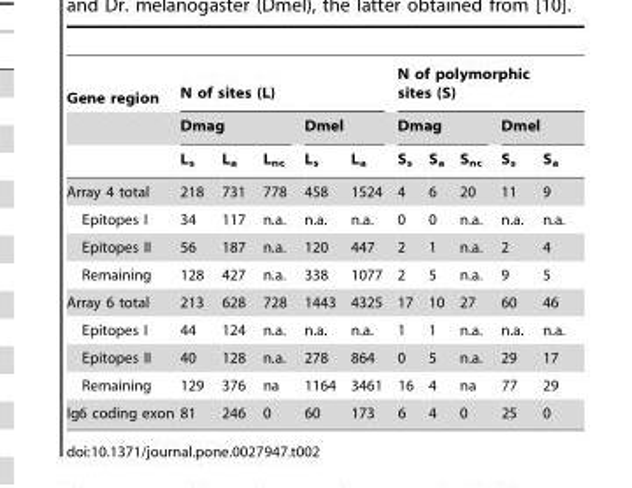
<table><thead><tr><td rowspan="3">Gene region</td><td colspan="5">N of sites (L)</td><td colspan="5">N of polymorphic sites (S)</td></tr><tr><td colspan="3">Dmag</td><td colspan="2">Dmel</td><td colspan="3">Dmag</td><td colspan="2">Dmel</td></tr><tr><td>L<sub>s</sub></td><td>L<sub>a</sub></td><td>L<sub>nc</sub></td><td>L<sub>s</sub></td><td>L<sub>a</sub></td><td>S<sub>s</sub></td><td>S<sub>a</sub></td><td>S<sub>nc</sub></td><td>S<sub>s</sub></td><td>S<sub>a</sub></td></tr></thead><tbody><tr><td>Array 4 total</td><td>218</td><td>731</td><td>778</td><td>458</td><td>1524</td><td>4</td><td>6</td><td>20</td><td>11</td><td>9</td></tr><tr><td>Epitopes I</td><td>34</td><td>117</td><td>n.a.</td><td>n.a.</td><td>n.a.</td><td>0</td><td>0</td><td>n.a.</td><td>n.a.</td><td>n.a.</td></tr><tr><td>Epitopes II</td><td>56</td><td>187</td><td>n.a.</td><td>120</td><td>447</td><td>2</td><td>1</td><td>n.a.</td><td>2</td><td>4</td></tr><tr><td>Remaining</td><td>128</td><td>427</td><td>n.a.</td><td>338</td><td>1077</td><td>2</td><td>5</td><td>n.a.</td><td>9</td><td>5</td></tr><tr><td>Array 6 total</td><td>213</td><td>628</td><td>728</td><td>1443</td><td>4325</td><td>17</td><td>10</td><td>27</td><td>60</td><td>46</td></tr><tr><td>Epitopes I</td><td>44</td><td>124</td><td>n.a.</td><td>n.a.</td><td>n.a.</td><td>1</td><td>1</td><td>n.a.</td><td>n.a.</td><td>n.a.</td></tr><tr><td>Epitopes II</td><td>40</td><td>128</td><td>n.a.</td><td>278</td><td>864</td><td>0</td><td>5</td><td>n.a.</td><td>29</td><td>17</td></tr><tr><td>Remaining</td><td>129</td><td>376</td><td>na</td><td>1164</td><td>3461</td><td>16</td><td>4</td><td>na</td><td>77</td><td>29</td></tr><tr><td>Ig6 coding exon</td><td>81</td><td>246</td><td>0</td><td>60</td><td>173</td><td>6</td><td>4</td><td>0</td><td>25</td><td>0</td></tr></tbody></table>